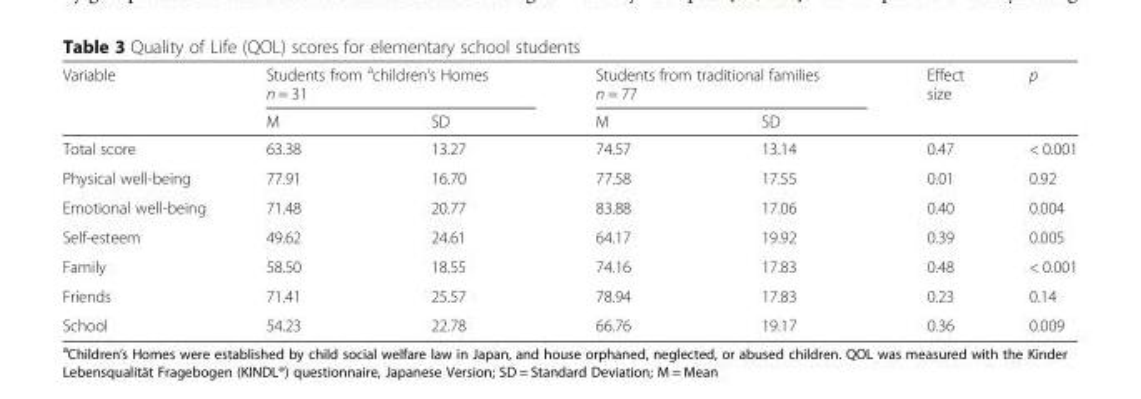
<table><thead><tr><td rowspan="2">Variable</td><td colspan="2">Students from <sup>a</sup>children’s Homes n = 31</td><td colspan="2">Students from traditional families n = 77</td><td rowspan="2">Effect size</td><td rowspan="2">p</td></tr><tr><td>M</td><td>SD</td><td>M</td><td>SD</td></tr></thead><tbody><tr><td>Total score</td><td>63.38</td><td>13.27</td><td>74.57</td><td>13.14</td><td>0.47</td><td>&lt; 0.001</td></tr><tr><td>Physical well-being</td><td>77.91</td><td>16.70</td><td>77.58</td><td>17.55</td><td>0.01</td><td>0.92</td></tr><tr><td>Emotional well-being</td><td>71.48</td><td>20.77</td><td>83.88</td><td>17.06</td><td>0.40</td><td>0.004</td></tr><tr><td>Self-esteem</td><td>49.62</td><td>24.61</td><td>64.17</td><td>19.92</td><td>0.39</td><td>0.005</td></tr><tr><td>Family</td><td>58.50</td><td>18.55</td><td>74.16</td><td>17.83</td><td>0.48</td><td>&lt; 0.001</td></tr><tr><td>Friends</td><td>71.41</td><td>25.57</td><td>78.94</td><td>17.83</td><td>0.23</td><td>0.14</td></tr><tr><td>School</td><td>54.23</td><td>22.78</td><td>66.76</td><td>19.17</td><td>0.36</td><td>0.009</td></tr></tbody></table>